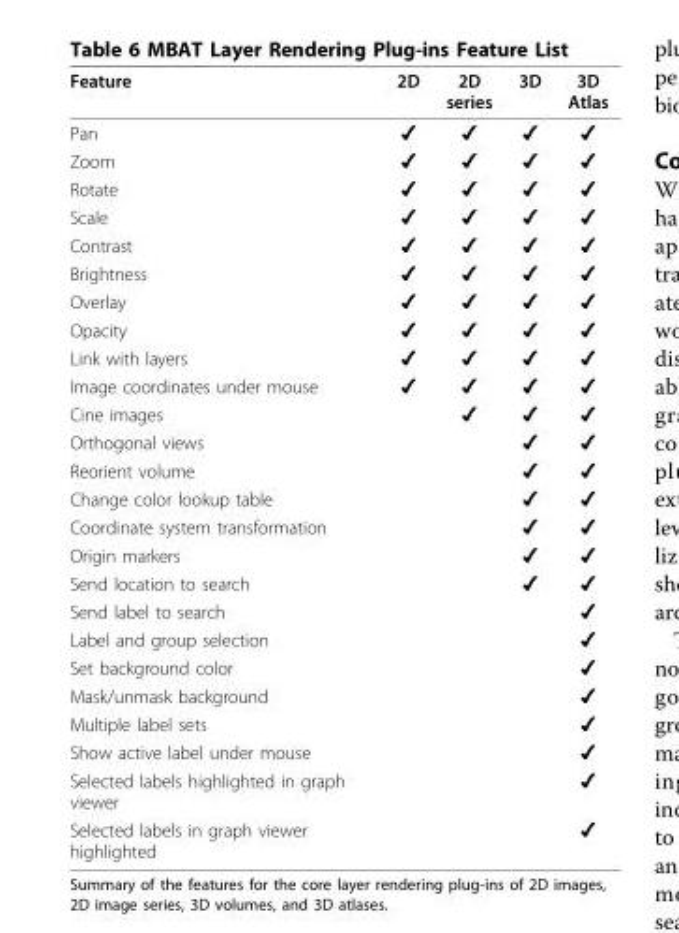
<table><thead><tr><td>Feature</td><td>2D</td><td>2D series</td><td>3D</td><td>3D Atlas</td></tr></thead><tbody><tr><td>Pan</td><td>✔</td><td>✔</td><td>✔</td><td>✔</td></tr><tr><td>Zoom</td><td>✔</td><td>✔</td><td>✔</td><td>✔</td></tr><tr><td>Rotate</td><td>✔</td><td>✔</td><td>✔</td><td>✔</td></tr><tr><td>Scale</td><td>✔</td><td>✔</td><td>✔</td><td>✔</td></tr><tr><td>Contrast</td><td>✔</td><td>✔</td><td>✔</td><td>✔</td></tr><tr><td>Brightness</td><td>✔</td><td>✔</td><td>✔</td><td>✔</td></tr><tr><td>Overlay</td><td>✔</td><td>✔</td><td>✔</td><td>✔</td></tr><tr><td>Opacity</td><td>✔</td><td>✔</td><td>✔</td><td>✔</td></tr><tr><td>Link with layers</td><td>✔</td><td>✔</td><td>✔</td><td>✔</td></tr><tr><td>Image coordinates under mouse</td><td>✔</td><td>✔</td><td>✔</td><td>✔</td></tr><tr><td>Cine images</td><td></td><td>✔</td><td>✔</td><td>✔</td></tr><tr><td>Orthogonal views</td><td></td><td></td><td>✔</td><td>✔</td></tr><tr><td>Reorient volume</td><td></td><td></td><td>✔</td><td>✔</td></tr><tr><td>Change color lookup table</td><td></td><td></td><td>✔</td><td>✔</td></tr><tr><td>Coordinate system transformation</td><td></td><td></td><td>✔</td><td>✔</td></tr><tr><td>Origin markers</td><td></td><td></td><td>✔</td><td>✔</td></tr><tr><td>Send location to search</td><td></td><td></td><td>✔</td><td>✔</td></tr><tr><td>Send label to search</td><td></td><td></td><td></td><td>✔</td></tr><tr><td>Label and group selection</td><td></td><td></td><td></td><td>✔</td></tr><tr><td>Set background color</td><td></td><td></td><td></td><td>✔</td></tr><tr><td>Mask/unmask background</td><td></td><td></td><td></td><td>✔</td></tr><tr><td>Multiple label sets</td><td></td><td></td><td></td><td>✔</td></tr><tr><td>Show active label under mouse</td><td></td><td></td><td></td><td>✔</td></tr><tr><td>Selected labels highlighted in graph viewer</td><td></td><td></td><td></td><td>✔</td></tr><tr><td>Selected labels in graph viewer highlighted</td><td></td><td></td><td></td><td>✔</td></tr></tbody></table>